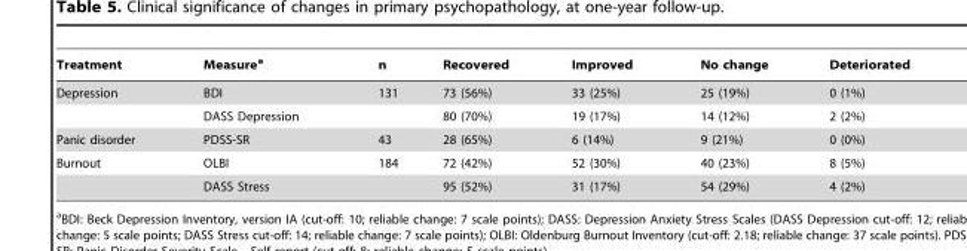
<table><thead><tr><td>Treatment</td><td>Measure<sup>a</sup></td><td>n</td><td>Recovered</td><td>Improved</td><td>No change</td><td>Deteriorated</td></tr></thead><tbody><tr><td rowspan="2">Depression</td><td>BDI</td><td>131</td><td>73 (56%)</td><td>33 (25%)</td><td>25 (19%)</td><td>0 (1%)</td></tr><tr><td>DASS Depression</td><td></td><td>80 (70%)</td><td>19 (17%)</td><td>14 (12%)</td><td>2 (2%)</td></tr><tr><td>Panic disorder</td><td>PDSS-SR</td><td>43</td><td>28 (65%)</td><td>6 (14%)</td><td>9 (21%)</td><td>0 (0%)</td></tr><tr><td rowspan="2">Burnout</td><td>OLBI</td><td>184</td><td>72 (42%)</td><td>52 (30%)</td><td>40 (23%)</td><td>8 (5%)</td></tr><tr><td>DASS Stress</td><td></td><td>95 (52%)</td><td>31 (17%)</td><td>54 (29%)</td><td>4 (2%)</td></tr></tbody></table>